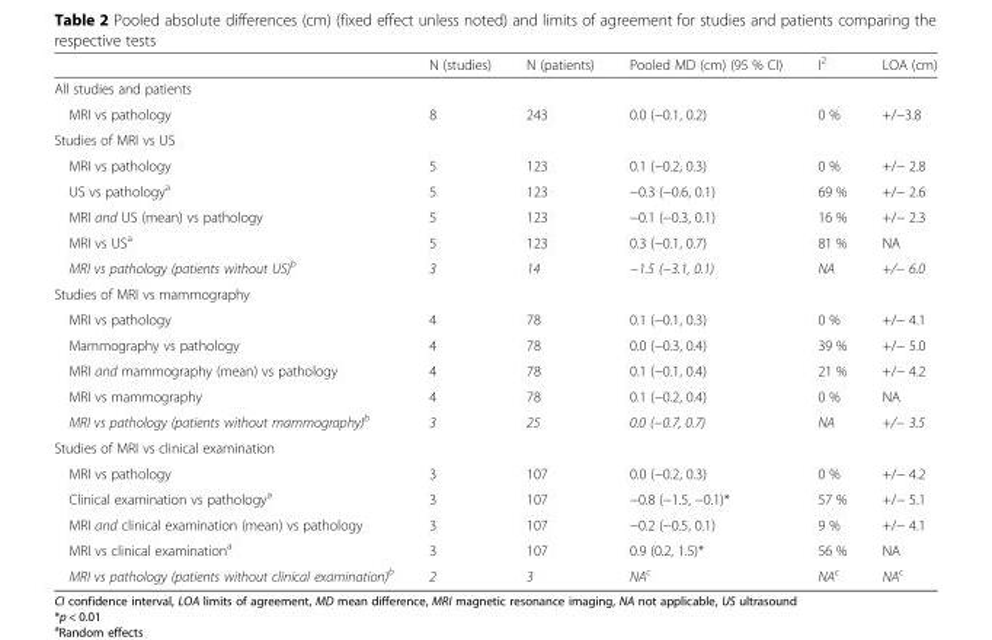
<table><thead><tr><td></td><td>N (studies)</td><td>N (patients)</td><td>Pooled MD (cm) (95 % CI)</td><td>I<sup>2</sup></td><td>LOA (cm)</td></tr></thead><tbody><tr><td colspan="6">All studies and patients</td></tr><tr><td>MRI vs pathology</td><td>8</td><td>243</td><td>0.0 (−0.1, 0.2)</td><td>0 %</td><td>+/−3.8</td></tr><tr><td colspan="6">Studies of MRI vs US</td></tr><tr><td>MRI vs pathology</td><td>5</td><td>123</td><td>0.1 (−0.2, 0.3)</td><td>0 %</td><td>+/− 2.8</td></tr><tr><td>US vs pathology<sup>a</sup></td><td>5</td><td>123</td><td>−0.3 (−0.6, 0.1)</td><td>69 %</td><td>+/− 2.6</td></tr><tr><td>MRI and US (mean) vs pathology</td><td>5</td><td>123</td><td>−0.1 (−0.3, 0.1)</td><td>16 %</td><td>+/− 2.3</td></tr><tr><td>MRI vs US<sup>a</sup></td><td>5</td><td>123</td><td>0.3 (−0.1, 0.7)</td><td>81 %</td><td>NA</td></tr><tr><td>MRI vs pathology (patients without US)<sup>b</sup></td><td>3</td><td>14</td><td>−1.5 (−3.1, 0.1)</td><td>NA</td><td>+/− 6.0</td></tr><tr><td colspan="6">Studies of MRI vs mammography</td></tr><tr><td>MRI vs pathology</td><td>4</td><td>78</td><td>0.1 (−0.1, 0.3)</td><td>0 %</td><td>+/− 4.1</td></tr><tr><td>Mammography vs pathology</td><td>4</td><td>78</td><td>0.0 (−0.3, 0.4)</td><td>39 %</td><td>+/− 5.0</td></tr><tr><td>MRI and mammography (mean) vs pathology</td><td>4</td><td>78</td><td>0.1 (−0.1, 0.4)</td><td>21 %</td><td>+/− 4.2</td></tr><tr><td>MRI vs mammography</td><td>4</td><td>78</td><td>0.1 (−0.2, 0.4)</td><td>0 %</td><td>NA</td></tr><tr><td>MRI vs pathology (patients without mammography)<sup>b</sup></td><td>3</td><td>25</td><td>0.0 (−0.7, 0.7)</td><td>NA</td><td>+/− 3.5</td></tr><tr><td colspan="6">Studies of MRI vs clinical examination</td></tr><tr><td>MRI vs pathology</td><td>3</td><td>107</td><td>0.0 (−0.2, 0.3)</td><td>0 %</td><td>+/− 4.2</td></tr><tr><td>Clinical examination vs pathology<sup>a</sup></td><td>3</td><td>107</td><td>−0.8 (−1.5, −0.1)*</td><td>57 %</td><td>+/− 5.1</td></tr><tr><td>MRI and clinical examination (mean) vs pathology</td><td>3</td><td>107</td><td>−0.2 (−0.5, 0.1)</td><td>9 %</td><td>+/− 4.1</td></tr><tr><td>MRI vs clinical examination<sup>a</sup></td><td>3</td><td>107</td><td>0.9 (0.2, 1.5)*</td><td>56 %</td><td>NA</td></tr><tr><td>MRI vs pathology (patients without clinical examination)<sup>b</sup></td><td>2</td><td>3</td><td>NA<sup>c</sup></td><td>NA<sup>c</sup></td><td>NA<sup>c</sup></td></tr></tbody></table>